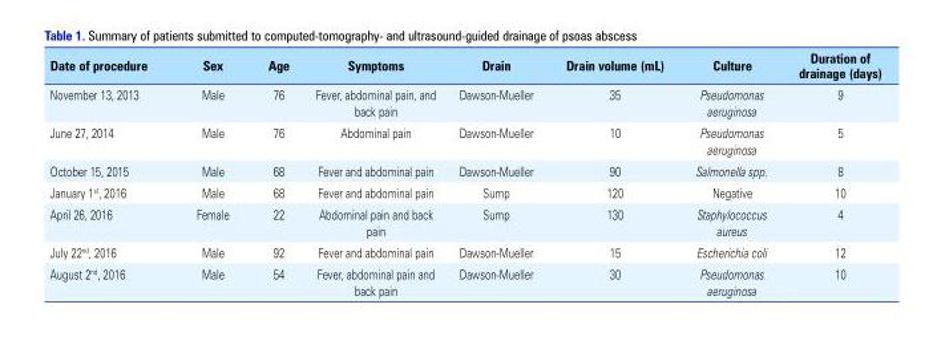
<table><thead><tr><td>Date of procedure</td><td>Sex</td><td>Age</td><td>Symptoms</td><td>Drain</td><td>Drain volume (mL)</td><td>Culture</td><td>Duration of drainage (days)</td></tr></thead><tbody><tr><td>November 13, 2013</td><td>Male</td><td>76</td><td>Fever, abdominal pain, and back pain</td><td>Dawson-Mueller</td><td>35</td><td>Pseudomonas aeruginosa</td><td>9</td></tr><tr><td>June 27, 2014</td><td>Male</td><td>76</td><td>Abdominal pain</td><td>Dawson-Mueller</td><td>10</td><td>Pseudomonas aeruginosa</td><td>5</td></tr><tr><td>October 15, 2015</td><td>Male</td><td>68</td><td>Fever and abdominal pain</td><td>Dawson-Mueller</td><td>90</td><td>Salmonella spp.</td><td>8</td></tr><tr><td>January 1<sup>st</sup>, 2016</td><td>Male</td><td>68</td><td>Fever and abdominal pain</td><td>Sump</td><td>120</td><td>Negative</td><td>10</td></tr><tr><td>April 26, 2016</td><td>Female</td><td>22</td><td>Abdominal pain and back pain</td><td>Sump</td><td>130</td><td>Staphylococcus aureus</td><td>4</td></tr><tr><td>July 22<sup>nd</sup>, 2016</td><td>Male</td><td>92</td><td>Fever and abdominal pain</td><td>Dawson-Mueller</td><td>15</td><td>Escherichia coli</td><td>12</td></tr><tr><td>August 2<sup>nd</sup>, 2016</td><td>Male</td><td>54</td><td>Fever, abdominal pain and back pain</td><td>Dawson-Mueller</td><td>30</td><td>Pseudomonas aeruginosa</td><td>10</td></tr></tbody></table>